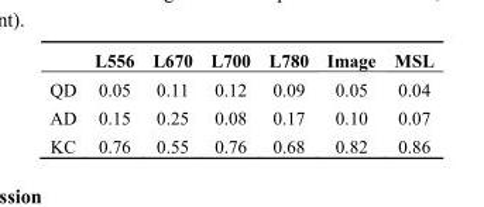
<table><thead><tr><td></td><td>L556</td><td>L670</td><td>L700</td><td>L780</td><td>Image</td><td>MSL</td></tr></thead><tbody><tr><td>QD</td><td>0.05</td><td>0.11</td><td>0.12</td><td>0.09</td><td>0.05</td><td>0.04</td></tr><tr><td>AD</td><td>0.15</td><td>0.25</td><td>0.08</td><td>0.17</td><td>0.10</td><td>0.07</td></tr><tr><td>KC</td><td>0.76</td><td>0.55</td><td>0.76</td><td>0.68</td><td>0.82</td><td>0.86</td></tr></tbody></table>